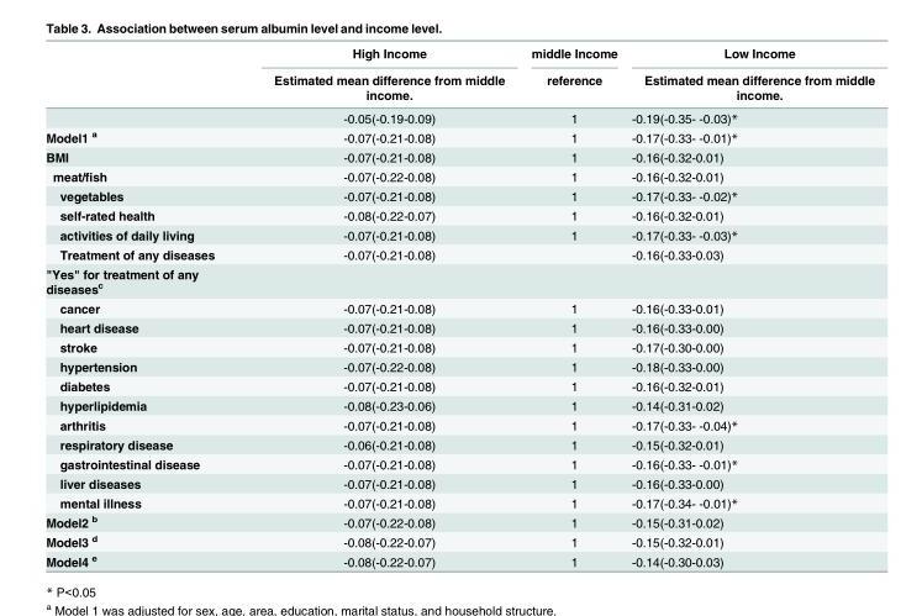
<table><thead><tr><td rowspan="2"></td><td rowspan="2">High Income Estimated mean difference from middle income.</td><td rowspan="2">middle Income reference</td><td rowspan="2">Low Income Estimated mean difference from middle income.</td></tr><tr></tr></thead><tbody><tr><td></td><td>-0.05(-0.19-0.09)</td><td>1</td><td>-0.19(-0.35- -0.03)*</td></tr><tr><td>Model1 <sup>a</sup></td><td>-0.07(-0.21-0.08)</td><td>1</td><td>-0.17(-0.33- -0.01)*</td></tr><tr><td>BMI</td><td>-0.07(-0.21-0.08)</td><td>1</td><td>-0.16(-0.32-0.01)</td></tr><tr><td>meat/fish</td><td>-0.07(-0.22-0.08)</td><td>1</td><td>-0.16(-0.32-0.01)</td></tr><tr><td>vegetables</td><td>-0.07(-0.21-0.08)</td><td>1</td><td>-0.17(-0.33- -0.02)*</td></tr><tr><td>self-rated health</td><td>-0.08(-0.22-0.07)</td><td>1</td><td>-0.16(-0.32-0.01)</td></tr><tr><td>activities of daily living</td><td>-0.07(-0.21-0.08)</td><td>1</td><td>-0.17(-0.33- -0.03)*</td></tr><tr><td>Treatment of any diseases</td><td>-0.07(-0.21-0.08)</td><td></td><td>-0.16(-0.33-0.03)</td></tr><tr><td colspan="4">&quot;Yes&quot; for treatment of any diseases<sup>c</sup></td></tr><tr><td>cancer</td><td>-0.07(-0.21-0.08)</td><td>1</td><td>-0.16(-0.33-0.01)</td></tr><tr><td>heart disease</td><td>-0.07(-0.21-0.08)</td><td>1</td><td>-0.16(-0.33-0.00)</td></tr><tr><td>stroke</td><td>-0.07(-0.21-0.08)</td><td>1</td><td>-0.17(-0.30-0.00)</td></tr><tr><td>hypertension</td><td>-0.07(-0.22-0.08)</td><td>1</td><td>-0.18(-0.33-0.00)</td></tr><tr><td>diabetes</td><td>-0.07(-0.21-0.08)</td><td>1</td><td>-0.16(-0.32-0.01)</td></tr><tr><td>hyperlipidemia</td><td>-0.08(-0.23-0.06)</td><td>1</td><td>-0.14(-0.31-0.02)</td></tr><tr><td>arthritis</td><td>-0.07(-0.21-0.08)</td><td>1</td><td>-0.17(-0.33- -0.04)*</td></tr><tr><td>respiratory disease</td><td>-0.06(-0.21-0.08)</td><td>1</td><td>-0.15(-0.32-0.01)</td></tr><tr><td>gastrointestinal disease</td><td>-0.07(-0.21-0.08)</td><td>1</td><td>-0.16(-0.33- -0.01)*</td></tr><tr><td>liver diseases</td><td>-0.07(-0.21-0.08)</td><td>1</td><td>-0.16(-0.33-0.00)</td></tr><tr><td>mental illness</td><td>-0.07(-0.21-0.08)</td><td>1</td><td>-0.17(-0.34- -0.01)*</td></tr><tr><td>Model2 <sup>b</sup></td><td>-0.07(-0.22-0.08)</td><td>1</td><td>-0.15(-0.31-0.02)</td></tr><tr><td>Model3 <sup>d</sup></td><td>-0.08(-0.22-0.07)</td><td>1</td><td>-0.15(-0.32-0.01)</td></tr><tr><td>Model4 <sup>e</sup></td><td>-0.08(-0.22-0.07)</td><td>1</td><td>-0.14(-0.30-0.03)</td></tr></tbody></table>